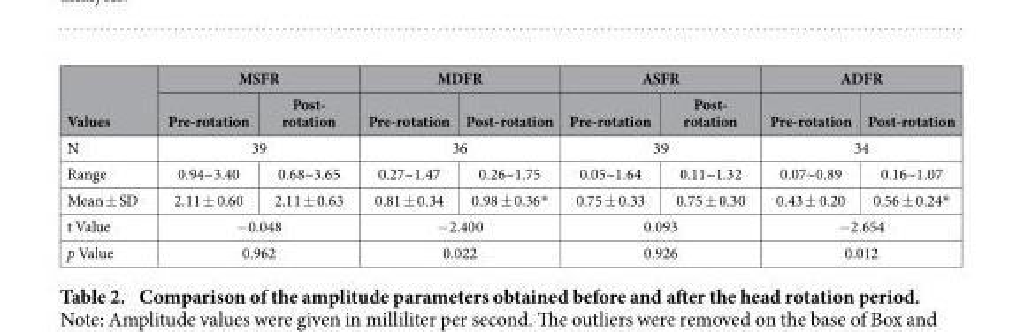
<table><thead><tr><td rowspan="2">Values</td><td colspan="2">MSFR</td><td colspan="2">MDFR</td><td colspan="2">ASFR</td><td colspan="2">ADFR</td></tr><tr><td>Pre-rotation</td><td>Post- rotation</td><td>Pre-rotation</td><td>Post-rotation</td><td>Pre-rotation</td><td>Post- rotation</td><td>Pre-rotation</td><td>Post-rotation</td></tr></thead><tbody><tr><td>N</td><td colspan="2">39</td><td colspan="2">36</td><td colspan="2">39</td><td colspan="2">34</td></tr><tr><td>Range</td><td>0.94~3.40</td><td>0.68~3.65</td><td>0.27~1.47</td><td>0.26~1.75</td><td>0.05~1.64</td><td>0.11~1.32</td><td>0.07~0.89</td><td>0.16~1.07</td></tr><tr><td>Mean ± SD</td><td>2.11 ± 0.60</td><td>2.11 ± 0.63</td><td>0.81 ± 0.34</td><td>0.98 ± 0.36*</td><td>0.75 ± 0.33</td><td>0.75 ± 0.30</td><td>0.43 ± 0.20</td><td>0.56 ± 0.24*</td></tr><tr><td>t Value</td><td colspan="2">− 0.048</td><td colspan="2">− 2.400</td><td colspan="2">0.093</td><td colspan="2">− 2.654</td></tr><tr><td>p Value</td><td colspan="2">0.962</td><td colspan="2">0.022</td><td colspan="2">0.926</td><td colspan="2">0.012</td></tr></tbody></table>